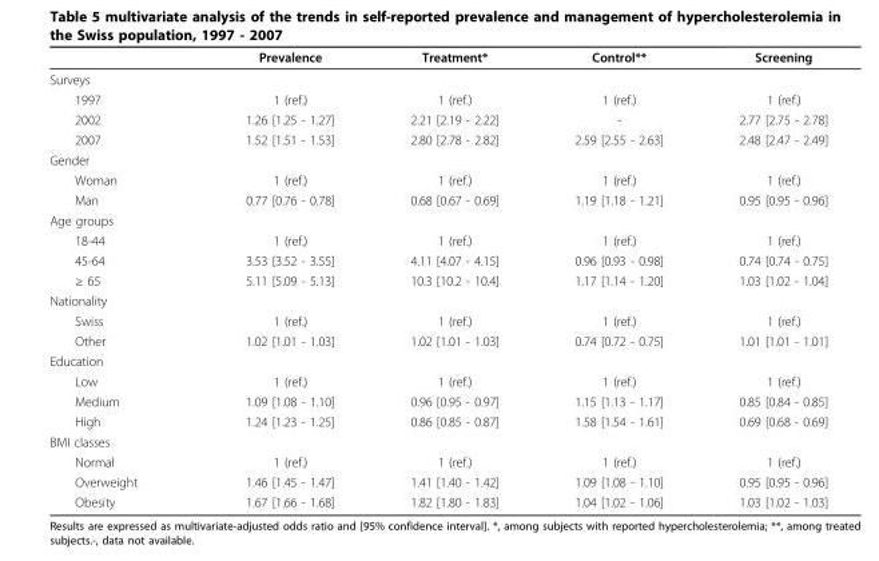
<table><thead><tr><td></td><td>Prevalence</td><td>Treatment*</td><td>Control**</td><td>Screening</td></tr></thead><tbody><tr><td colspan="5">Surveys</td></tr><tr><td>1997</td><td>1 (ref.)</td><td>1 (ref.)</td><td>1 (ref.)</td><td>1 (ref.)</td></tr><tr><td>2002</td><td>1.26 [1.25 - 1.27]</td><td>2.21 [2.19 - 2.22]</td><td>-</td><td>2.77 [2.75 - 2.78]</td></tr><tr><td>2007</td><td>1.52 [1.51 - 1.53]</td><td>2.80 [2.78 - 2.82]</td><td>2.59 [2.55 - 2.63]</td><td>2.48 [2.47 - 2.49]</td></tr><tr><td colspan="5">Gender</td></tr><tr><td>Woman</td><td>1 (ref.)</td><td>1 (ref.)</td><td>1 (ref.)</td><td>1 (ref.)</td></tr><tr><td>Man</td><td>0.77 [0.76 - 0.78]</td><td>0.68 [0.67 - 0.69]</td><td>1.19 [1.18 - 1.21]</td><td>0.95 [0.95 - 0.96]</td></tr><tr><td colspan="5">Age groups</td></tr><tr><td>18-44</td><td>1 (ref.)</td><td>1 (ref.)</td><td>1 (ref.)</td><td>1 (ref.)</td></tr><tr><td>45-64</td><td>3.53 [3.52 - 3.55]</td><td>4.11 [4.07 - 4.15]</td><td>0.96 [0.93 - 0.98]</td><td>0.74 [0.74 - 0.75]</td></tr><tr><td>≥ 65</td><td>5.11 [5.09 - 5.13]</td><td>10.3 [10.2 - 10.4]</td><td>1.17 [1.14 - 1.20]</td><td>1.03 [1.02 - 1.04]</td></tr><tr><td colspan="5">Nationality</td></tr><tr><td>Swiss</td><td>1 (ref.)</td><td>1 (ref.)</td><td>1 (ref.)</td><td>1 (ref.)</td></tr><tr><td>Other</td><td>1.02 [1.01 - 1.03]</td><td>1.02 [1.01 - 1.03]</td><td>0.74 [0.72 - 0.75]</td><td>1.01 [1.01 - 1.01]</td></tr><tr><td colspan="5">Education</td></tr><tr><td>Low</td><td>1 (ref.)</td><td>1 (ref.)</td><td>1 (ref.)</td><td>1 (ref.)</td></tr><tr><td>Medium</td><td>1.09 [1.08 - 1.10]</td><td>0.96 [0.95 - 0.97]</td><td>1.15 [1.13 - 1.17]</td><td>0.85 [0.84 - 0.85]</td></tr><tr><td>High</td><td>1.24 [1.23 - 1.25]</td><td>0.86 [0.85 - 0.87]</td><td>1.58 [1.54 - 1.61]</td><td>0.69 [0.68 - 0.69]</td></tr><tr><td colspan="5">BMI classes</td></tr><tr><td>Normal</td><td>1 (ref.)</td><td>1 (ref.)</td><td>1 (ref.)</td><td>1 (ref.)</td></tr><tr><td>Overweight</td><td>1.46 [1.45 - 1.47]</td><td>1.41 [1.40 - 1.42]</td><td>1.09 [1.08 - 1.10]</td><td>0.95 [0.95 - 0.96]</td></tr><tr><td>Obesity</td><td>1.67 [1.66 - 1.68]</td><td>1.82 [1.80 - 1.83]</td><td>1.04 [1.02 - 1.06]</td><td>1.03 [1.02 - 1.03]</td></tr></tbody></table>